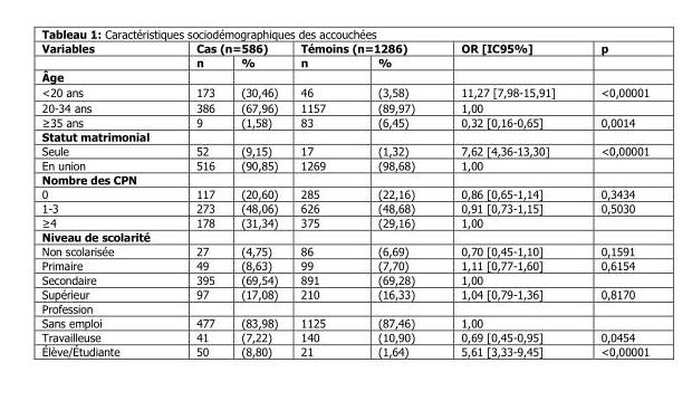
<table><thead><tr><td rowspan="2">Variables</td><td colspan="2">Cas (n=586)</td><td colspan="2">Témoins (n=1286)</td><td rowspan="2">OR [IC95%]</td><td rowspan="2">p</td></tr><tr><td>n</td><td>%</td><td>n</td><td>%</td></tr></thead><tbody><tr><td colspan="7">Âge</td></tr><tr><td>&lt;20 ans</td><td>173</td><td>(30,46)</td><td>46</td><td>(3,58)</td><td>11,27 [7,98-15,91]</td><td>&lt;0,00001</td></tr><tr><td>20-34 ans</td><td>386</td><td>(67,96)</td><td>1157</td><td>(89,97)</td><td>1,00</td><td></td></tr><tr><td>≥35 ans</td><td>9</td><td>(1,58)</td><td>83</td><td>(6,45)</td><td>0,32 [0,16-0,65]</td><td>0,0014</td></tr><tr><td colspan="7">Statut matrimonial</td></tr><tr><td>Seule</td><td>52</td><td>(9,15)</td><td>17</td><td>(1,32)</td><td>7,62 [4,36-13,30]</td><td>&lt;0,00001</td></tr><tr><td>En union</td><td>516</td><td>(90,85)</td><td>1269</td><td>(98,68)</td><td>1,00</td><td></td></tr><tr><td colspan="7">Nombre des CPN</td></tr><tr><td>0</td><td>117</td><td>(20,60)</td><td>285</td><td>(22,16)</td><td>0,86 [0,65-1,14]</td><td>0,3434</td></tr><tr><td>1-3</td><td>273</td><td>(48,06)</td><td>626</td><td>(48,68)</td><td>0,91 [0,73-1,15]</td><td>0,5030</td></tr><tr><td>≥4</td><td>178</td><td>(31,34)</td><td>375</td><td>(29,16)</td><td>1,00</td><td></td></tr><tr><td colspan="7">Niveau de scolarité</td></tr><tr><td>Non scolarisée</td><td>27</td><td>(4,75)</td><td>86</td><td>(6,69)</td><td>0,70 [0,45-1,10]</td><td>0,1591</td></tr><tr><td>Primaire</td><td>49</td><td>(8,63)</td><td>99</td><td>(7,70)</td><td>1,11 [0,77-1,60]</td><td>0,6154</td></tr><tr><td>Secondaire</td><td>395</td><td>(69,54)</td><td>891</td><td>(69,28)</td><td>1,00</td><td></td></tr><tr><td>Supérieur</td><td>97</td><td>(17,08)</td><td>210</td><td>(16,33)</td><td>1,04 [0,79-1,36]</td><td>0,8170</td></tr><tr><td colspan="7">Profession</td></tr><tr><td>Sans emploi</td><td>477</td><td>(83,98)</td><td>1125</td><td>(87,46)</td><td>1,00</td><td></td></tr><tr><td>Travailleuse</td><td>41</td><td>(7,22)</td><td>140</td><td>(10,90)</td><td>0,69 [0,45-0,95]</td><td>0,0454</td></tr><tr><td>Élève/Étudiante</td><td>50</td><td>(8,80)</td><td>21</td><td>(1,64)</td><td>5,61 [3,33-9,45]</td><td>&lt;0,00001</td></tr></tbody></table>